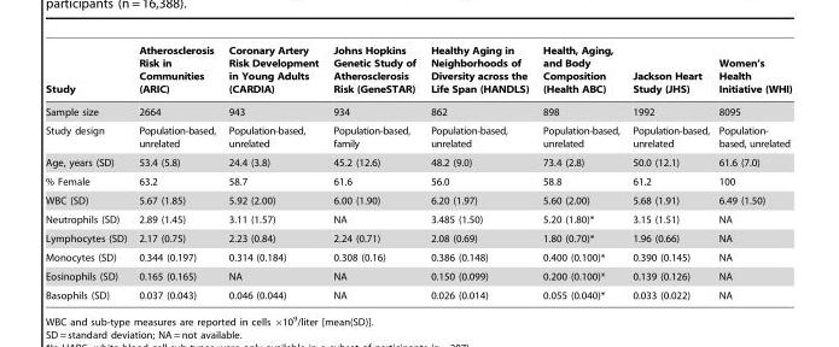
<table><thead><tr><td>Study</td><td>Atherosclerosis Risk in Communities (ARIC)</td><td>Coronary Artery Risk Development in Young Adults (CARDIA)</td><td>Johns Hopkins Genetic Study of Atherosclerosis Risk (GeneSTAR)</td><td>Healthy Aging in Neighborhoods of Diversity across the Life Span (HANDLS)</td><td>Health, Aging, and Body Composition (Health ABC)</td><td>Jackson Heart Study (JHS)</td><td>Women’s Health Initiative (WHI)</td></tr></thead><tbody><tr><td>Sample size</td><td>2664</td><td>943</td><td>934</td><td>862</td><td>898</td><td>1992</td><td>8095</td></tr><tr><td>Study design</td><td>Population-based, unrelated</td><td>Population-based, unrelated</td><td>Population-based, family</td><td>Population-based, unrelated</td><td>Population-based, unrelated</td><td>Population-based, unrelated</td><td>Population- based, unrelated</td></tr><tr><td>Age, years (SD)</td><td>53.4 (5.8)</td><td>24.4 (3.8)</td><td>45.2 (12.6)</td><td>48.2 (9.0)</td><td>73.4 (2.8)</td><td>50.0 (12.1)</td><td>61.6 (7.0)</td></tr><tr><td>% Female</td><td>63.2</td><td>58.7</td><td>61.6</td><td>56.0</td><td>58.8</td><td>61.2</td><td>100</td></tr><tr><td>WBC (SD)</td><td>5.67 (1.85)</td><td>5.92 (2.00)</td><td>6.00 (1.90)</td><td>6.20 (1.97)</td><td>5.60 (2.00)</td><td>5.68 (1.91)</td><td>6.49 (1.50)</td></tr><tr><td>Neutrophils (SD)</td><td>2.89 (1.45)</td><td>3.11 (1.57)</td><td>NA</td><td>3.485 (1.50)</td><td>5.20 (1.80)*</td><td>3.15 (1.51)</td><td>NA</td></tr><tr><td>Lymphocytes (SD)</td><td>2.17 (0.75)</td><td>2.23 (0.84)</td><td>2.24 (0.71)</td><td>2.08 (0.69)</td><td>1.80 (0.70)*</td><td>1.96 (0.66)</td><td>NA</td></tr><tr><td>Monocytes (SD)</td><td>0.344 (0.197)</td><td>0.314 (0.184)</td><td>0.308 (0.16)</td><td>0.386 (0.148)</td><td>0.400 (0.100)*</td><td>0.390 (0.145)</td><td>NA</td></tr><tr><td>Eosinophils (SD)</td><td>0.165 (0.165)</td><td>NA</td><td>NA</td><td>0.150 (0.099)</td><td>0.200 (0.100)*</td><td>0.139 (0.126)</td><td>NA</td></tr><tr><td>Basophils (SD)</td><td>0.037 (0.043)</td><td>0.046 (0.044)</td><td>NA</td><td>0.026 (0.014)</td><td>0.055 (0.040)*</td><td>0.033 (0.022)</td><td>NA</td></tr></tbody></table>